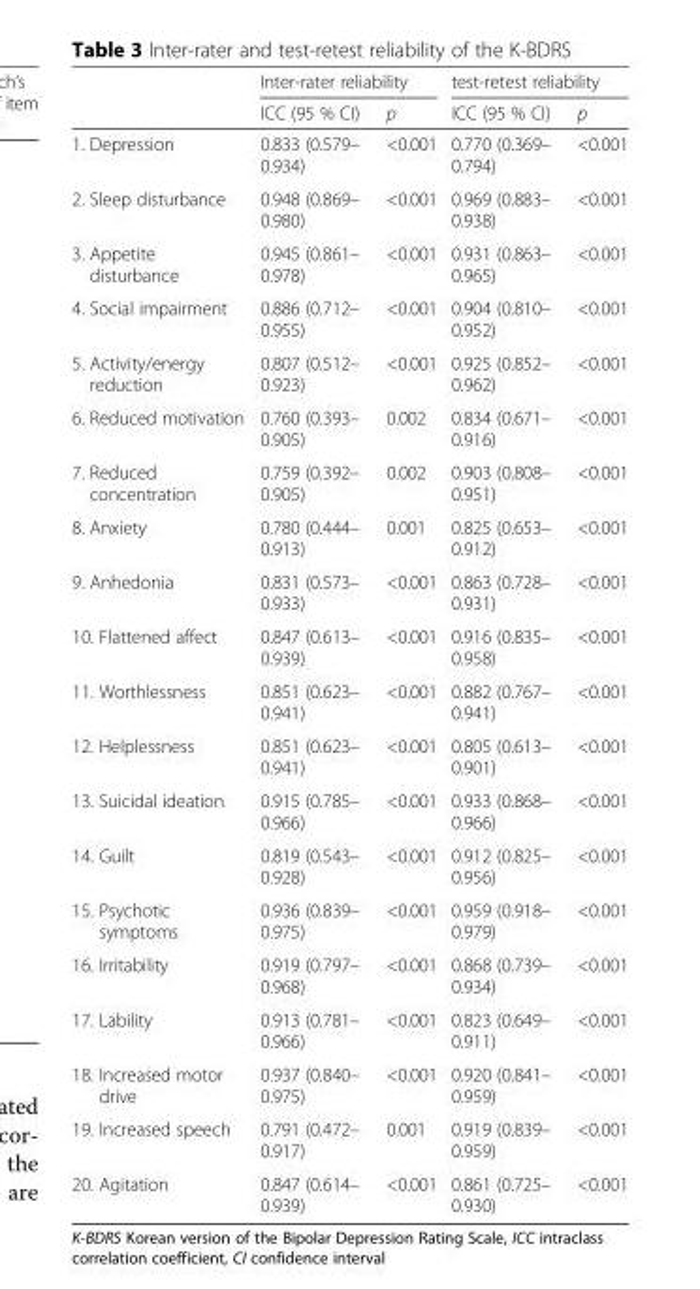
<table><thead><tr><td rowspan="2"></td><td colspan="2">Inter-rater reliability</td><td colspan="2">test-retest reliability</td></tr><tr><td>ICC (95 % CI)</td><td>p</td><td>ICC (95 % CI)</td><td>p</td></tr></thead><tbody><tr><td>1. Depression</td><td>0.833 (0.579– 0.934)</td><td>&lt;0.001</td><td>0.770 (0.369– 0.794)</td><td>&lt;0.001</td></tr><tr><td>2. Sleep disturbance</td><td>0.948 (0.869– 0.980)</td><td>&lt;0.001</td><td>0.969 (0.883– 0.938)</td><td>&lt;0.001</td></tr><tr><td>3. Appetite disturbance</td><td>0.945 (0.861– 0.978)</td><td>&lt;0.001</td><td>0.931 (0.863– 0.965)</td><td>&lt;0.001</td></tr><tr><td>4. Social impairment</td><td>0.886 (0.712– 0.955)</td><td>&lt;0.001</td><td>0.904 (0.810– 0.952)</td><td>&lt;0.001</td></tr><tr><td>5. Activity/energy reduction</td><td>0.807 (0.512– 0.923)</td><td>&lt;0.001</td><td>0.925 (0.852– 0.962)</td><td>&lt;0.001</td></tr><tr><td>6. Reduced motivation</td><td>0.760 (0.393– 0.905)</td><td>0.002</td><td>0.834 (0.671– 0.916)</td><td>&lt;0.001</td></tr><tr><td>7. Reduced concentration</td><td>0.759 (0.392– 0.905)</td><td>0.002</td><td>0.903 (0.808– 0.951)</td><td>&lt;0.001</td></tr><tr><td>8. Anxiety</td><td>0.780 (0.444– 0.913)</td><td>0.001</td><td>0.825 (0.653– 0.912)</td><td>&lt;0.001</td></tr><tr><td>9. Anhedonia</td><td>0.831 (0.573– 0.933)</td><td>&lt;0.001</td><td>0.863 (0.728– 0.931)</td><td>&lt;0.001</td></tr><tr><td>10. Flattened affect</td><td>0.847 (0.613– 0.939)</td><td>&lt;0.001</td><td>0.916 (0.835– 0.958)</td><td>&lt;0.001</td></tr><tr><td>11. Worthlessness</td><td>0.851 (0.623– 0.941)</td><td>&lt;0.001</td><td>0.882 (0.767– 0.941)</td><td>&lt;0.001</td></tr><tr><td>12. Helplessness</td><td>0.851 (0.623– 0.941)</td><td>&lt;0.001</td><td>0.805 (0.613– 0.901)</td><td>&lt;0.001</td></tr><tr><td>13. Suicidal ideation</td><td>0.915 (0.785– 0.966)</td><td>&lt;0.001</td><td>0.933 (0.868– 0.966)</td><td>&lt;0.001</td></tr><tr><td>14. Guilt</td><td>0.819 (0.543– 0.928)</td><td>&lt;0.001</td><td>0.912 (0.825– 0.956)</td><td>&lt;0.001</td></tr><tr><td>15. Psychotic symptoms</td><td>0.936 (0.839– 0.975)</td><td>&lt;0.001</td><td>0.959 (0.918– 0.979)</td><td>&lt;0.001</td></tr><tr><td>16. Irritability</td><td>0.919 (0.797– 0.968)</td><td>&lt;0.001</td><td>0.868 (0.739– 0.934)</td><td>&lt;0.001</td></tr><tr><td>17. Lability</td><td>0.913 (0.781– 0.966)</td><td>&lt;0.001</td><td>0.823 (0.649– 0.911)</td><td>&lt;0.001</td></tr><tr><td>18. Increased motor drive</td><td>0.937 (0.840– 0.975)</td><td>&lt;0.001</td><td>0.920 (0.841– 0.959)</td><td>&lt;0.001</td></tr><tr><td>19. Increased speech</td><td>0.791 (0.472– 0.917)</td><td>0.001</td><td>0.919 (0.839– 0.959)</td><td>&lt;0.001</td></tr><tr><td>20. Agitation</td><td>0.847 (0.614– 0.939)</td><td>&lt;0.001</td><td>0.861 (0.725– 0.930)</td><td>&lt;0.001</td></tr></tbody></table>